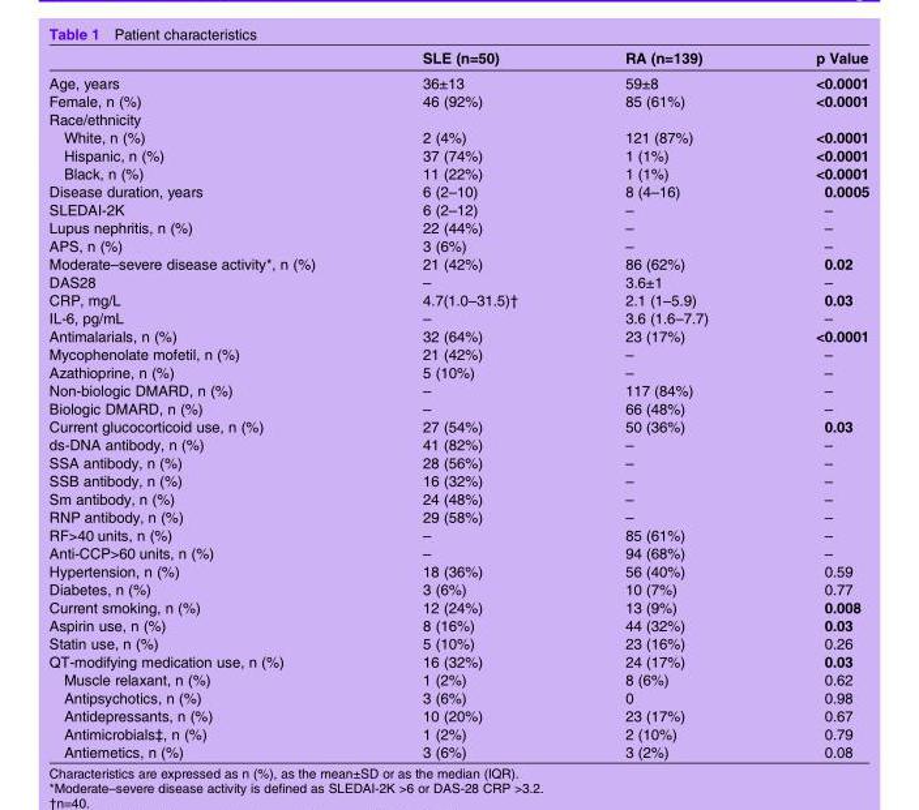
<table><thead><tr><td></td><td>SLE (n=50)</td><td>RA (n=139)</td><td>p Value</td></tr></thead><tbody><tr><td>Age, years</td><td>36±13</td><td>59±8</td><td>&lt;0.0001</td></tr><tr><td>Female, n (%)</td><td>46 (92%)</td><td>85 (61%)</td><td>&lt;0.0001</td></tr><tr><td colspan="4">Race/ethnicity</td></tr><tr><td>White, n (%)</td><td>2 (4%)</td><td>121 (87%)</td><td>&lt;0.0001</td></tr><tr><td>Hispanic, n (%)</td><td>37 (74%)</td><td>1 (1%)</td><td>&lt;0.0001</td></tr><tr><td>Black, n (%)</td><td>11 (22%)</td><td>1 (1%)</td><td>&lt;0.0001</td></tr><tr><td>Disease duration, years</td><td>6 (2–10)</td><td>8 (4–16)</td><td>0.0005</td></tr><tr><td>SLEDAI-2K</td><td>6 (2–12)</td><td>–</td><td>–</td></tr><tr><td>Lupus nephritis, n (%)</td><td>22 (44%)</td><td>–</td><td>–</td></tr><tr><td>APS, n (%)</td><td>3 (6%)</td><td>–</td><td>–</td></tr><tr><td>Moderate–severe disease activity*, n (%)</td><td>21 (42%)</td><td>86 (62%)</td><td>0.02</td></tr><tr><td>DAS28</td><td>–</td><td>3.6±1</td><td>–</td></tr><tr><td>CRP, mg/L</td><td>4.7(1.0–31.5)†</td><td>2.1 (1–5.9)</td><td>0.03</td></tr><tr><td>IL-6, pg/mL</td><td>–</td><td>3.6 (1.6–7.7)</td><td>–</td></tr><tr><td>Antimalarials, n (%)</td><td>32 (64%)</td><td>23 (17%)</td><td>&lt;0.0001</td></tr><tr><td>Mycophenolate mofetil, n (%)</td><td>21 (42%)</td><td>–</td><td>–</td></tr><tr><td>Azathioprine, n (%)</td><td>5 (10%)</td><td>–</td><td>–</td></tr><tr><td>Non-biologic DMARD, n (%)</td><td>–</td><td>117 (84%)</td><td>–</td></tr><tr><td>Biologic DMARD, n (%)</td><td>–</td><td>66 (48%)</td><td>–</td></tr><tr><td>Current glucocorticoid use, n (%)</td><td>27 (54%)</td><td>50 (36%)</td><td>0.03</td></tr><tr><td>ds-DNA antibody, n (%)</td><td>41 (82%)</td><td>–</td><td>–</td></tr><tr><td>SSA antibody, n (%)</td><td>28 (56%)</td><td>–</td><td>–</td></tr><tr><td>SSB antibody, n (%)</td><td>16 (32%)</td><td>–</td><td>–</td></tr><tr><td>Sm antibody, n (%)</td><td>24 (48%)</td><td>–</td><td>–</td></tr><tr><td>RNP antibody, n (%)</td><td>29 (58%)</td><td>–</td><td>–</td></tr><tr><td>RF&gt;40 units, n (%)</td><td>–</td><td>85 (61%)</td><td>–</td></tr><tr><td>Anti-CCP&gt;60 units, n (%)</td><td>–</td><td>94 (68%)</td><td>–</td></tr><tr><td>Hypertension, n (%)</td><td>18 (36%)</td><td>56 (40%)</td><td>0.59</td></tr><tr><td>Diabetes, n (%)</td><td>3 (6%)</td><td>10 (7%)</td><td>0.77</td></tr><tr><td>Current smoking, n (%)</td><td>12 (24%)</td><td>13 (9%)</td><td>0.008</td></tr><tr><td>Aspirin use, n (%)</td><td>8 (16%)</td><td>44 (32%)</td><td>0.03</td></tr><tr><td>Statin use, n (%)</td><td>5 (10%)</td><td>23 (16%)</td><td>0.26</td></tr><tr><td>QT-modifying medication use, n (%)</td><td>16 (32%)</td><td>24 (17%)</td><td>0.03</td></tr><tr><td>Muscle relaxant, n (%)</td><td>1 (2%)</td><td>8 (6%)</td><td>0.62</td></tr><tr><td>Antipsychotics, n (%)</td><td>3 (6%)</td><td>0</td><td>0.98</td></tr><tr><td>Antidepressants, n (%)</td><td>10 (20%)</td><td>23 (17%)</td><td>0.67</td></tr><tr><td>Antimicrobials‡, n (%)</td><td>1 (2%)</td><td>2 (10%)</td><td>0.79</td></tr><tr><td>Antiemetics, n (%)</td><td>3 (6%)</td><td>3 (2%)</td><td>0.08</td></tr></tbody></table>